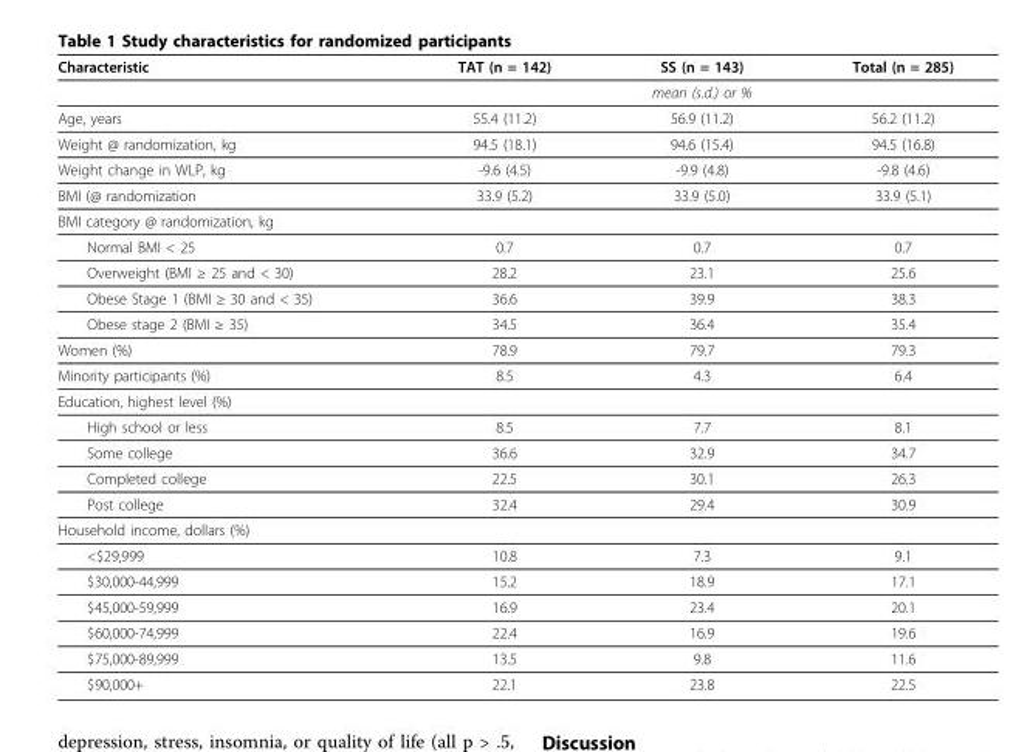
<table><thead><tr><td>Characteristic</td><td>TAT (n = 142)</td><td>SS (n = 143)</td><td>Total (n = 285)</td></tr></thead><tbody><tr><td></td><td></td><td>mean (s.d.) or %</td><td></td></tr><tr><td>Age, years</td><td>55.4 (11.2)</td><td>56.9 (11.2)</td><td>56.2 (11.2)</td></tr><tr><td>Weight @ randomization, kg</td><td>94.5 (18.1)</td><td>94.6 (15.4)</td><td>94.5 (16.8)</td></tr><tr><td>Weight change in WLP, kg</td><td>-9.6 (4.5)</td><td>-9.9 (4.8)</td><td>-9.8 (4.6)</td></tr><tr><td>BMI (@ randomization</td><td>33.9 (5.2)</td><td>33.9 (5.0)</td><td>33.9 (5.1)</td></tr><tr><td colspan="4">BMI category @ randomization, kg</td></tr><tr><td>Normal BMI &lt; 25</td><td>0.7</td><td>0.7</td><td>0.7</td></tr><tr><td>Overweight (BMI ≥ 25 and &lt; 30)</td><td>28.2</td><td>23.1</td><td>25.6</td></tr><tr><td>Obese Stage 1 (BMI ≥ 30 and &lt; 35)</td><td>36.6</td><td>39.9</td><td>38.3</td></tr><tr><td>Obese stage 2 (BMI ≥ 35)</td><td>34.5</td><td>36.4</td><td>35.4</td></tr><tr><td>Women (%)</td><td>78.9</td><td>79.7</td><td>79.3</td></tr><tr><td>Minority participants (%)</td><td>8.5</td><td>4.3</td><td>6.4</td></tr><tr><td colspan="4">Education, highest level (%)</td></tr><tr><td>High school or less</td><td>8.5</td><td>7.7</td><td>8.1</td></tr><tr><td>Some college</td><td>36.6</td><td>32.9</td><td>34.7</td></tr><tr><td>Completed college</td><td>22.5</td><td>30.1</td><td>26.3</td></tr><tr><td>Post college</td><td>32.4</td><td>29.4</td><td>30.9</td></tr><tr><td colspan="4">Household income, dollars (%)</td></tr><tr><td>&lt;$29,999</td><td>10.8</td><td>7.3</td><td>9.1</td></tr><tr><td>$30,000-44,999</td><td>15.2</td><td>18.9</td><td>17.1</td></tr><tr><td>$45,000-59,999</td><td>16.9</td><td>23.4</td><td>20.1</td></tr><tr><td>$60,000-74,999</td><td>22.4</td><td>16.9</td><td>19.6</td></tr><tr><td>$75,000-89,999</td><td>13.5</td><td>9.8</td><td>11.6</td></tr><tr><td>$90,000+</td><td>22.1</td><td>23.8</td><td>22.5</td></tr></tbody></table>